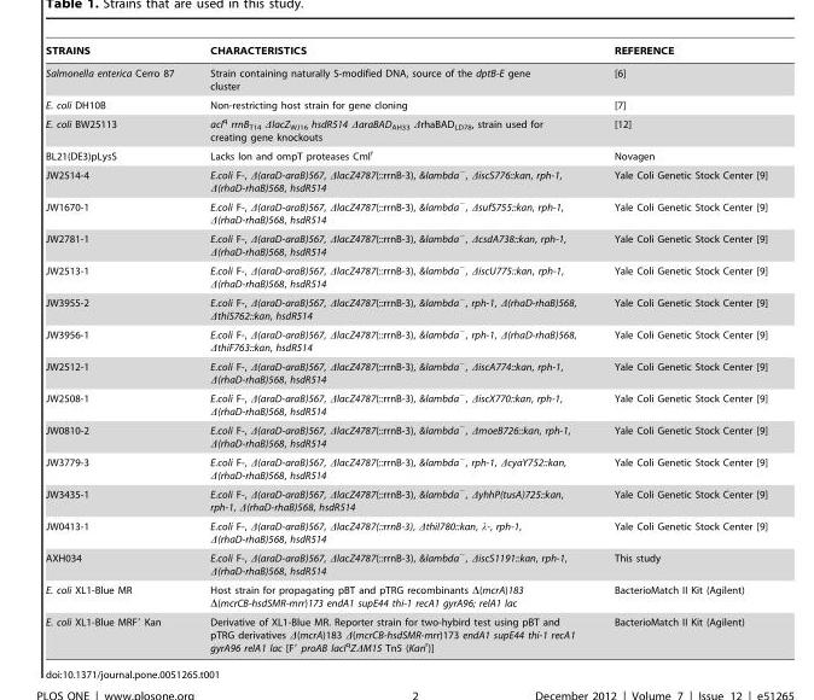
<table><thead><tr><td>STRAINS</td><td>CHARACTERISTICS</td><td>REFERENCE</td></tr></thead><tbody><tr><td>Salmonella enterica Cerro 87</td><td>Strain containing naturally S-modified DNA, source of the dptB-E gene cluster</td><td>[6]</td></tr><tr><td>E. coli DH10B</td><td>Non-restricting host strain for gene cloning</td><td>[7]</td></tr><tr><td>E. coli BW25113</td><td>acI<sup>q</sup> rrnB<sub>T14</sub> ΔlacZ<sub>WJ16</sub> hsdR514 ΔaraBAD<sub>AH33</sub> ΔrhaBAD<sub>LD78</sub>, strain used for creating gene knockouts</td><td>[12]</td></tr><tr><td>BL21(DE3)pLysS</td><td>Lacks lon and ompT proteases Cml<sup>r</sup></td><td>Novagen</td></tr><tr><td>JW2514-4</td><td>E.coli F-, Δ(araD-araB)567, ΔlacZ4787(::rrnB-3), &amp;lambda<sup>−</sup>, ΔiscS776::kan, rph-1, Δ(rhaD-rhaB)568, hsdR514</td><td>Yale Coli Genetic Stock Center [9]</td></tr><tr><td>JW1670-1</td><td>E.coli F-, Δ(araD-araB)567, ΔlacZ4787(::rrnB-3), &amp;lambda<sup>−</sup>, ΔsufS755::kan, rph-1, Δ(rhaD-rhaB)568, hsdR514</td><td>Yale Coli Genetic Stock Center [9]</td></tr><tr><td>JW2781-1</td><td>E.coli F-, Δ(araD-araB)567, ΔlacZ4787(::rrnB-3), &amp;lambda<sup>−</sup>, ΔcsdA738::kan, rph-1, Δ(rhaD-rhaB)568, hsdR514</td><td>Yale Coli Genetic Stock Center [9]</td></tr><tr><td>JW2513-1</td><td>E.coli F-, Δ(araD-araB)567, ΔlacZ4787(::rrnB-3), &amp;lambda<sup>−</sup>, ΔiscU775::kan, rph-1, Δ(rhaD-rhaB)568, hsdR514</td><td>Yale Coli Genetic Stock Center [9]</td></tr><tr><td>JW3955-2</td><td>E.coli F-, Δ(araD-araB)567, ΔlacZ4787(::rrnB-3), &amp;lambda<sup>−</sup>, rph-1, Δ(rhaD-rhaB)568, ΔthiS762::kan, hsdR514</td><td>Yale Coli Genetic Stock Center [9]</td></tr><tr><td>JW3956-1</td><td>E.coli F-, Δ(araD-araB)567, ΔlacZ4787(::rrnB-3), &amp;lambda<sup>−</sup>, rph-1, Δ(rhaD-rhaB)568, ΔthiF763::kan, hsdR514</td><td>Yale Coli Genetic Stock Center [9]</td></tr><tr><td>JW2512-1</td><td>E.coli F-, Δ(araD-araB)567, ΔlacZ4787(::rrnB-3), &amp;lambda<sup>−</sup>, ΔiscA774::kan, rph-1, Δ(rhaD-rhaB)568, hsdR514</td><td>Yale Coli Genetic Stock Center [9]</td></tr><tr><td>JW2508-1</td><td>E.coli F-, Δ(araD-araB)567, ΔlacZ4787(::rrnB-3), &amp;lambda<sup>−</sup>, ΔiscX770::kan, rph-1, Δ(rhaD-rhaB)568, hsdR514</td><td>Yale Coli Genetic Stock Center [9]</td></tr><tr><td>JW0810-2</td><td>E.coli F-, Δ(araD-araB)567, ΔlacZ4787(::rrnB-3), &amp;lambda<sup>−</sup>, ΔmoeB726::kan, rph-1, Δ(rhaD-rhaB)568, hsdR514</td><td>Yale Coli Genetic Stock Center [9]</td></tr><tr><td>JW3779-3</td><td>E.coli F-, Δ(araD-araB)567, ΔlacZ4787(::rrnB-3), &amp;lambda<sup>−</sup>, rph-1, ΔcyaY752::kan, Δ(rhaD-rhaB)568, hsdR514</td><td>Yale Coli Genetic Stock Center [9]</td></tr><tr><td>JW3435-1</td><td>E.coli F-, Δ(araD-araB)567, ΔlacZ4787(::rrnB-3), &amp;lambda<sup>−</sup>, ΔyhhP(tusA)725::kan, rph-1, Δ(rhaD-rhaB)568, hsdR514</td><td>Yale Coli Genetic Stock Center [9]</td></tr><tr><td>JW0413-1</td><td>E.coli F-, Δ(araD-araB)567, ΔlacZ4787(::rrnB-3), ΔthiI780::kan, λ-, rph-1, Δ(rhaD-rhaB)568, hsdR514</td><td>Yale Coli Genetic Stock Center [9]</td></tr><tr><td>AXH034</td><td>E.coli F-, Δ(araD-araB)567, ΔlacZ4787(::rrnB-3), &amp;lambda<sup>−</sup>, ΔiscS1191::kan, rph-1, Δ(rhaD-rhaB)568, hsdR514</td><td>This study</td></tr><tr><td>E. coli XL1-Blue MR</td><td>Host strain for propagating pBT and pTRG recombinants Δ(mcrA)183 Δ(mcrCB-hsdSMR-mrr)173 endA1 supE44 thi-1 recA1 gyrA96; relA1 lac</td><td>BacterioMatch II Kit (Agilent)</td></tr><tr><td>E. coli XL1-Blue MRF′ Kan</td><td>Derivative of XL1-Blue MR. Reporter strain for two-hybird test using pBT and pTRG derivatives Δ(mcrA)183 Δ(mcrCB-hsdSMR-mrr)173 endA1 supE44 thi-1 recA1 gyrA96 relA1 lac [F′ proAB lacI<sup>q</sup>ZΔM15 Tn5 (Kan<sup>r</sup>)]</td><td>BacterioMatch II Kit (Agilent)</td></tr></tbody></table>